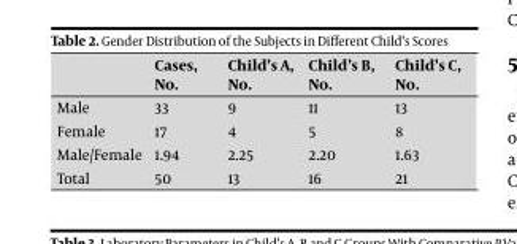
<table><thead><tr><td></td><td>Cases, No.</td><td>Child’s A, No.</td><td>Child’s B, No.</td><td>Child’s C, No.</td></tr></thead><tbody><tr><td>Male</td><td>33</td><td>9</td><td>11</td><td>13</td></tr><tr><td>Female</td><td>17</td><td>4</td><td>5</td><td>8</td></tr><tr><td>Male/Female</td><td>1.94</td><td>2.25</td><td>2.20</td><td>1.63</td></tr><tr><td>Total</td><td>50</td><td>13</td><td>16</td><td>21</td></tr></tbody></table>